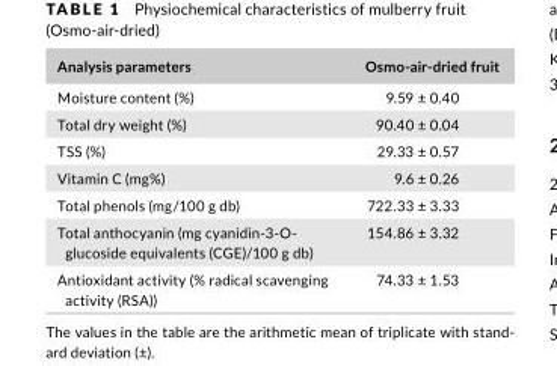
<table><thead><tr><td>Analysis parameters</td><td>Osmo- air- dried fruit</td></tr></thead><tbody><tr><td>Moisture content (%)</td><td>9.59 ± 0.40</td></tr><tr><td>Total dry weight (%)</td><td>90.40 ± 0.04</td></tr><tr><td>TSS (%)</td><td>29.33 ± 0.57</td></tr><tr><td>Vitamin C (mg%)</td><td>9.6 ± 0.26</td></tr><tr><td>Total phenols (mg/100 g db)</td><td>722.33 ± 3.33</td></tr><tr><td>Total anthocyanin (mg cyanidin- 3- O- glucoside equivalents (CGE)/100 g db)</td><td>154.86 ± 3.32</td></tr><tr><td>Antioxidant activity (% radical scavenging activity (RSA))</td><td>74.33 ± 1.53</td></tr></tbody></table>